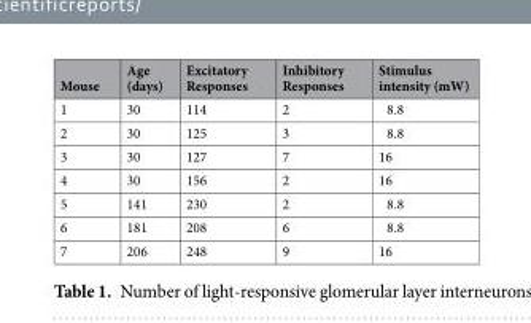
<table><thead><tr><td>Mouse</td><td>Age (days)</td><td>Excitatory Responses</td><td>Inhibitory Responses</td><td>Stimulus intensity (mW)</td></tr></thead><tbody><tr><td>1</td><td>30</td><td>114</td><td>2</td><td>8.8</td></tr><tr><td>2</td><td>30</td><td>125</td><td>3</td><td>8.8</td></tr><tr><td>3</td><td>30</td><td>127</td><td>7</td><td>16</td></tr><tr><td>4</td><td>30</td><td>156</td><td>2</td><td>16</td></tr><tr><td>5</td><td>141</td><td>230</td><td>2</td><td>8.8</td></tr><tr><td>6</td><td>181</td><td>208</td><td>6</td><td>8.8</td></tr><tr><td>7</td><td>206</td><td>248</td><td>9</td><td>16</td></tr></tbody></table>